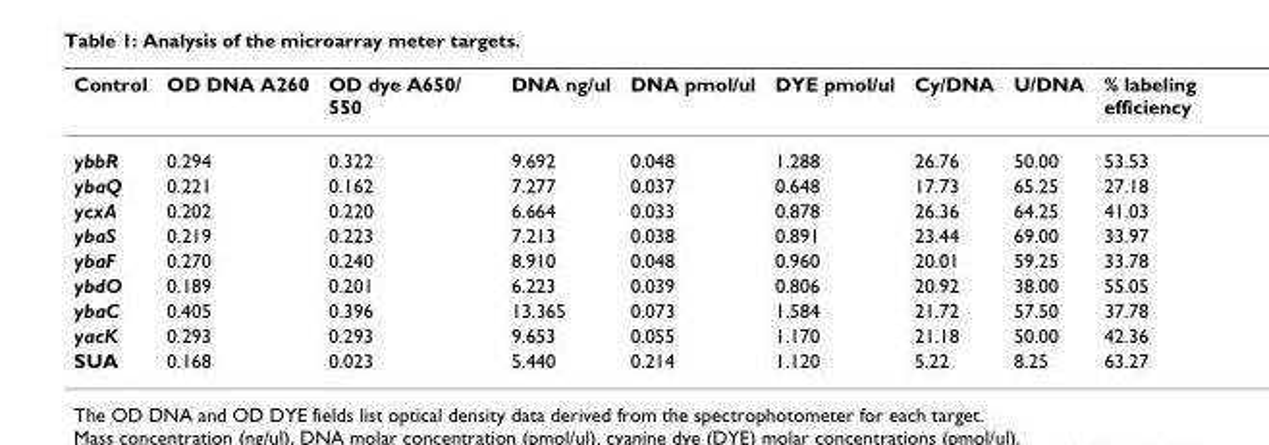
<table><thead><tr><td>Control</td><td>OD DNA A260</td><td>OD dye A650/ 550</td><td>DNA ng/ul</td><td>DNA pmol/ul</td><td>DYE pmol/ul</td><td>Cy/DNA</td><td>U/DNA</td><td>% labeling efficiency</td></tr></thead><tbody><tr><td>ybbR</td><td>0.294</td><td>0.322</td><td>9.692</td><td>0.048</td><td>1.288</td><td>26.76</td><td>50.00</td><td>53.53</td></tr><tr><td>ybaQ</td><td>0.221</td><td>0.162</td><td>7.277</td><td>0.037</td><td>0.648</td><td>17.73</td><td>65.25</td><td>27.18</td></tr><tr><td>ycxA</td><td>0.202</td><td>0.220</td><td>6.664</td><td>0.033</td><td>0.878</td><td>26.36</td><td>64.25</td><td>41.03</td></tr><tr><td>ybaS</td><td>0.219</td><td>0.223</td><td>7.213</td><td>0.038</td><td>0.891</td><td>23.44</td><td>69.00</td><td>33.97</td></tr><tr><td>ybaF</td><td>0.270</td><td>0.240</td><td>8.910</td><td>0.048</td><td>0.960</td><td>20.01</td><td>59.25</td><td>33.78</td></tr><tr><td>ybdO</td><td>0.189</td><td>0.201</td><td>6.223</td><td>0.039</td><td>0.806</td><td>20.92</td><td>38.00</td><td>55.05</td></tr><tr><td>ybaC</td><td>0.405</td><td>0.396</td><td>13.365</td><td>0.073</td><td>1.584</td><td>21.72</td><td>57.50</td><td>37.78</td></tr><tr><td>yacK</td><td>0.293</td><td>0.293</td><td>9.653</td><td>0.055</td><td>1.170</td><td>21.18</td><td>50.00</td><td>42.36</td></tr><tr><td>SUA</td><td>0.168</td><td>0.023</td><td>5.440</td><td>0.214</td><td>1.120</td><td>5.22</td><td>8.25</td><td>63.27</td></tr></tbody></table>